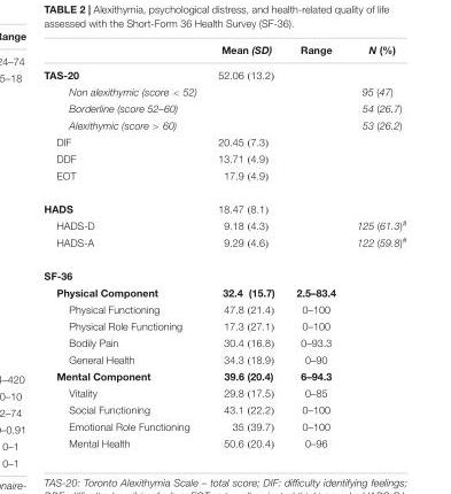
<table><thead><tr><td></td><td>Mean (SD)</td><td>Range</td><td>N (%)</td></tr></thead><tbody><tr><td>TAS-20</td><td>52.06 (13.2)</td><td></td><td></td></tr><tr><td>Non alexithymic (score &lt; 52)</td><td></td><td></td><td>95 (47)</td></tr><tr><td>Borderline (score 52–60)</td><td></td><td></td><td>54 (26.7)</td></tr><tr><td>Alexithymic (score &gt; 60)</td><td></td><td></td><td>53 (26.2)</td></tr><tr><td>DIF</td><td>20.45 (7.3)</td><td></td><td></td></tr><tr><td>DDF</td><td>13.71 (4.9)</td><td></td><td></td></tr><tr><td>EOT</td><td>17.9 (4.9)</td><td></td><td></td></tr><tr><td>HADS</td><td>18.47 (8.1)</td><td></td><td></td></tr><tr><td>HADS-D</td><td>9.18 (4.3)</td><td></td><td>125 (61.3)<sup>#</sup></td></tr><tr><td>HADS-A</td><td>9.29 (4.6)</td><td></td><td>122 (59.8)<sup>#</sup></td></tr><tr><td colspan="4">SF-36</td></tr><tr><td>Physical Component</td><td>32.4 (15.7)</td><td>2.5–83.4</td><td></td></tr><tr><td>Physical Functioning</td><td>47.8 (21.4)</td><td>0–100</td><td></td></tr><tr><td>Physical Role Functioning</td><td>17.3 (27.1)</td><td>0–100</td><td></td></tr><tr><td>Bodily Pain</td><td>30.4 (16.8)</td><td>0–93.3</td><td></td></tr><tr><td>General Health</td><td>34.3 (18.9)</td><td>0–90</td><td></td></tr><tr><td>Mental Component</td><td>39.6 (20.4)</td><td>6–94.3</td><td></td></tr><tr><td>Vitality</td><td>29.8 (17.5)</td><td>0–85</td><td></td></tr><tr><td>Social Functioning</td><td>43.1 (22.2)</td><td>0–100</td><td></td></tr><tr><td>Emotional Role Functioning</td><td>35 (39.7)</td><td>0–100</td><td></td></tr><tr><td>Mental Health</td><td>50.6 (20.4)</td><td>0–96</td><td></td></tr></tbody></table>